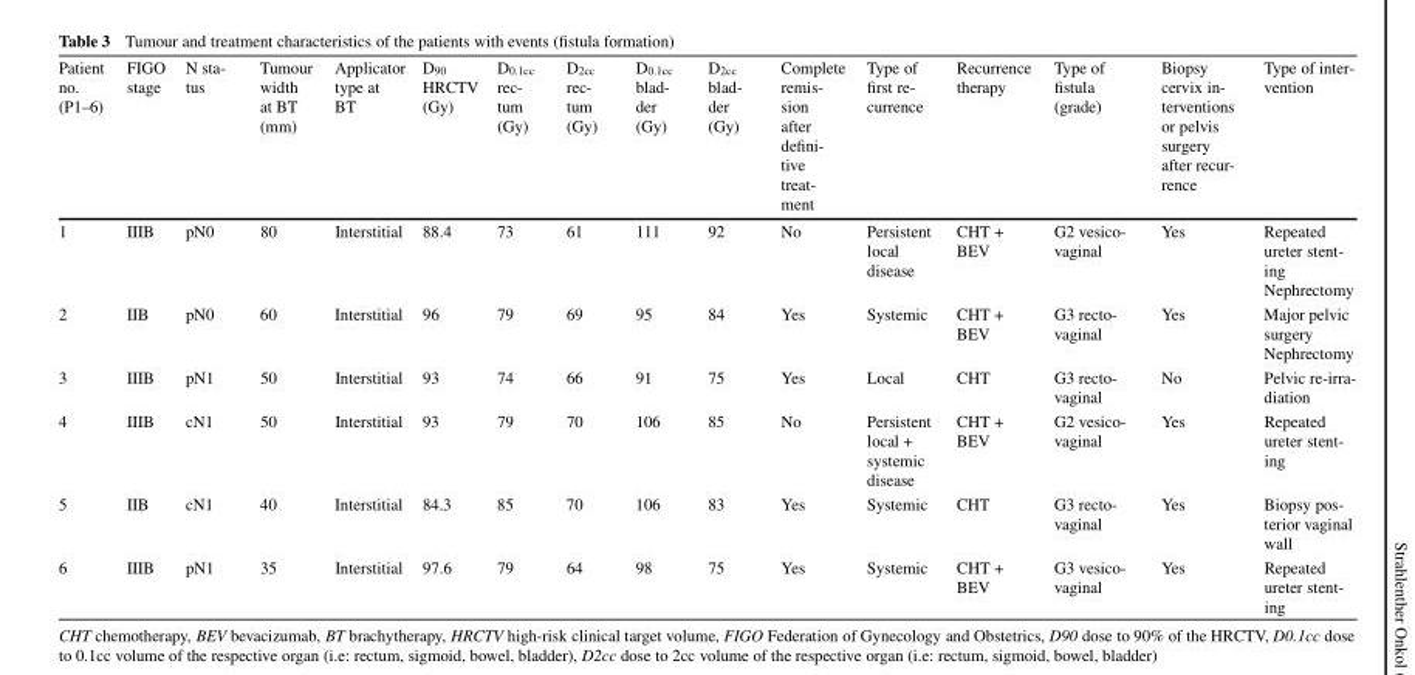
<table><thead><tr><td>Patient no. (P1–6)</td><td>FIGO stage</td><td>N sta- tus</td><td>Tumour width at BT (mm)</td><td>Applicator type at BT</td><td>D<sub>90</sub> HRCTV (Gy)</td><td>D0.1cc rec- tum (Gy)</td><td>D2cc rec- tum (Gy)</td><td>D0.1cc blad- der (Gy)</td><td>D2cc blad- der (Gy)</td><td>Complete remis- sion after defini- tive treat- ment</td><td>Type of first re- currence</td><td>Recurrence therapy</td><td>Type of fistula (grade)</td><td>Biopsy cervix in- terventions or pelvis surgery after recur- rence</td><td>Type of inter- vention</td></tr></thead><tbody><tr><td>1</td><td>IIIB</td><td>pN0</td><td>80</td><td>Interstitial</td><td>88.4</td><td>73</td><td>61</td><td>111</td><td>92</td><td>No</td><td>Persistent local disease</td><td>CHT + BEV</td><td>G2 vesico- vaginal</td><td>Yes</td><td>Repeated ureter stent- ing Nephrectomy</td></tr><tr><td>2</td><td>IIB</td><td>pN0</td><td>60</td><td>Interstitial</td><td>96</td><td>79</td><td>69</td><td>95</td><td>84</td><td>Yes</td><td>Systemic</td><td>CHT + BEV</td><td>G3 recto- vaginal</td><td>Yes</td><td>Major pelvic surgery Nephrectomy</td></tr><tr><td>3</td><td>IIIB</td><td>pN1</td><td>50</td><td>Interstitial</td><td>93</td><td>74</td><td>66</td><td>91</td><td>75</td><td>Yes</td><td>Local</td><td>CHT</td><td>G3 recto- vaginal</td><td>No</td><td>Pelvic re-irra- diation</td></tr><tr><td>4</td><td>IIIB</td><td>cN1</td><td>50</td><td>Interstitial</td><td>93</td><td>79</td><td>70</td><td>106</td><td>85</td><td>No</td><td>Persistent local + systemic disease</td><td>CHT + BEV</td><td>G2 vesico- vaginal</td><td>Yes</td><td>Repeated ureter stent- ing</td></tr><tr><td>5</td><td>IIB</td><td>cN1</td><td>40</td><td>Interstitial</td><td>84.3</td><td>85</td><td>70</td><td>106</td><td>83</td><td>Yes</td><td>Systemic</td><td>CHT</td><td>G3 recto- vaginal</td><td>Yes</td><td>Biopsy pos- terior vaginal wall</td></tr><tr><td>6</td><td>IIIB</td><td>pN1</td><td>35</td><td>Interstitial</td><td>97.6</td><td>79</td><td>64</td><td>98</td><td>75</td><td>Yes</td><td>Systemic</td><td>CHT + BEV</td><td>G3 vesico- vaginal</td><td>Yes</td><td>Repeated ureter stent- ing</td></tr></tbody></table>